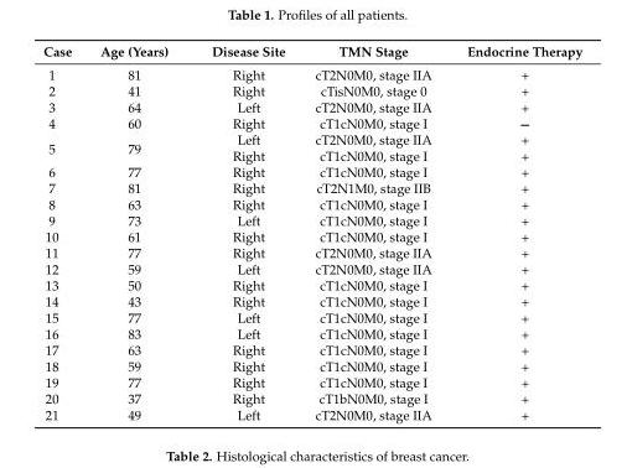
<table><thead><tr><td>Case</td><td>Age (Years)</td><td>Disease Site</td><td>TMN Stage</td><td>Endocrine Therapy</td></tr></thead><tbody><tr><td>1</td><td>81</td><td>Right</td><td>cT2N0M0, stage IIA</td><td>+</td></tr><tr><td>2</td><td>41</td><td>Right</td><td>cTisN0M0, stage 0</td><td>+</td></tr><tr><td>3</td><td>64</td><td>Left</td><td>cT2N0M0, stage IIA</td><td>+</td></tr><tr><td>4</td><td>60</td><td>Right</td><td>cT1cN0M0, stage I</td><td>−</td></tr><tr><td rowspan="2">5</td><td rowspan="2">79</td><td>Left</td><td>cT2N0M0, stage IIA</td><td>+</td></tr><tr><td>Right</td><td>cT1cN0M0, stage I</td><td>+</td></tr><tr><td>6</td><td>77</td><td>Right</td><td>cT1cN0M0, stage I</td><td>+</td></tr><tr><td>7</td><td>81</td><td>Right</td><td>cT2N1M0, stage IIB</td><td>+</td></tr><tr><td>8</td><td>63</td><td>Right</td><td>cT1cN0M0, stage I</td><td>+</td></tr><tr><td>9</td><td>73</td><td>Left</td><td>cT1cN0M0, stage I</td><td>+</td></tr><tr><td>10</td><td>61</td><td>Right</td><td>cT1cN0M0, stage I</td><td>+</td></tr><tr><td>11</td><td>77</td><td>Right</td><td>cT2N0M0, stage IIA</td><td>+</td></tr><tr><td>12</td><td>59</td><td>Left</td><td>cT2N0M0, stage IIA</td><td>+</td></tr><tr><td>13</td><td>50</td><td>Right</td><td>cT1cN0M0, stage I</td><td>+</td></tr><tr><td>14</td><td>43</td><td>Right</td><td>cT1cN0M0, stage I</td><td>+</td></tr><tr><td>15</td><td>77</td><td>Left</td><td>cT1cN0M0, stage I</td><td>+</td></tr><tr><td>16</td><td>83</td><td>Left</td><td>cT1cN0M0, stage I</td><td>+</td></tr><tr><td>17</td><td>63</td><td>Right</td><td>cT1cN0M0, stage I</td><td>+</td></tr><tr><td>18</td><td>59</td><td>Right</td><td>cT1cN0M0, stage I</td><td>+</td></tr><tr><td>19</td><td>77</td><td>Right</td><td>cT1cN0M0, stage I</td><td>+</td></tr><tr><td>20</td><td>37</td><td>Right</td><td>cT1bN0M0, stage I</td><td>+</td></tr><tr><td>21</td><td>49</td><td>Left</td><td>cT2N0M0, stage IIA</td><td>+</td></tr></tbody></table>